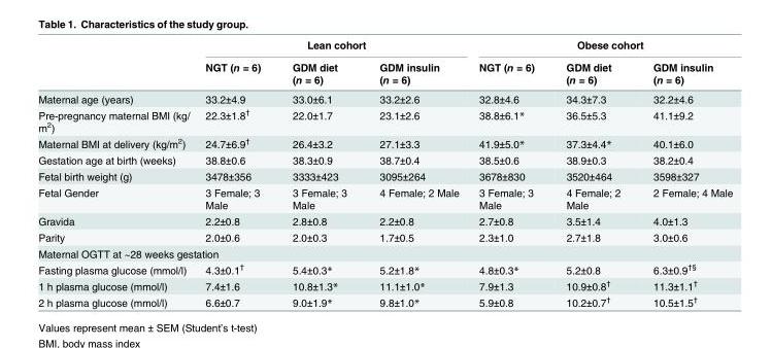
<table><thead><tr><td rowspan="2"></td><td colspan="3">Lean cohort</td><td colspan="3">Obese cohort</td></tr><tr><td>NGT (n = 6)</td><td>GDM diet (n = 6)</td><td>GDM insulin (n = 6)</td><td>NGT (n = 6)</td><td>GDM diet (n = 6)</td><td>GDM insulin (n = 6)</td></tr></thead><tbody><tr><td>Maternal age (years)</td><td>33.2±4.9</td><td>33.0±6.1</td><td>33.2±2.6</td><td>32.8±4.6</td><td>34.3±7.3</td><td>32.2±4.6</td></tr><tr><td>Pre-pregnancy maternal BMI (kg/ m<sup>2</sup>)</td><td>22.3±1.8<sup>†</sup></td><td>22.0±1.7</td><td>23.1±2.6</td><td>38.8±6.1*</td><td>36.5±5.3</td><td>41.1±9.2</td></tr><tr><td>Maternal BMI at delivery (kg/m<sup>2</sup>)</td><td>24.7±6.9<sup>†</sup></td><td>26.4±3.2</td><td>27.1±3.3</td><td>41.9±5.0*</td><td>37.3±4.4*</td><td>40.1±6.0</td></tr><tr><td>Gestation age at birth (weeks)</td><td>38.8±0.6</td><td>38.3±0.9</td><td>38.7±0.4</td><td>38.5±0.6</td><td>38.9±0.3</td><td>38.2±0.4</td></tr><tr><td>Fetal birth weight (g)</td><td>3478±356</td><td>3333±423</td><td>3095±264</td><td>3678±830</td><td>3520±464</td><td>3598±327</td></tr><tr><td>Fetal Gender</td><td>3 Female; 3 Male</td><td>3 Female; 3 Male</td><td>4 Female; 2 Male</td><td>3 Female; 3 Male</td><td>4 Female; 2 Male</td><td>2 Female; 4 Male</td></tr><tr><td>Gravida</td><td>2.2±0.8</td><td>2.8±0.8</td><td>2.2±0.8</td><td>2.7±0.8</td><td>3.5±1.4</td><td>4.0±1.3</td></tr><tr><td>Parity</td><td>2.0±0.6</td><td>2.0±0.3</td><td>1.7±0.5</td><td>2.3±1.0</td><td>2.7±1.8</td><td>3.0±0.6</td></tr><tr><td colspan="7">Maternal OGTT at ~28 weeks gestation</td></tr><tr><td>Fasting plasma glucose (mmol/l)</td><td>4.3±0.1<sup>†</sup></td><td>5.4±0.3*</td><td>5.2±1.8*</td><td>4.8±0.3*</td><td>5.2±0.8</td><td>6.3±0.9<sup>†§</sup></td></tr><tr><td>1 h plasma glucose (mmol/l)</td><td>7.4±1.6</td><td>10.8±1.3*</td><td>11.1±1.0*</td><td>7.9±1.3</td><td>10.9±0.8<sup>†</sup></td><td>11.3±1.1<sup>†</sup></td></tr><tr><td>2 h plasma glucose (mmol/l)</td><td>6.6±0.7</td><td>9.0±1.9*</td><td>9.8±1.0*</td><td>5.9±0.8</td><td>10.2±0.7<sup>†</sup></td><td>10.5±1.5<sup>†</sup></td></tr></tbody></table>